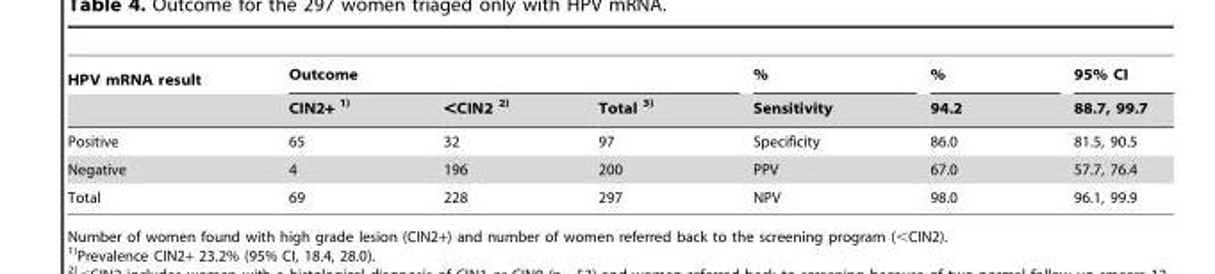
<table><thead><tr><td rowspan="2">HPV mRNA result</td><td colspan="3">Outcome</td><td rowspan="2">% Sensitivity</td><td rowspan="2">% 94.2</td><td rowspan="2">95% CI 88.7, 99.7</td></tr><tr><td>CIN2+ 1)</td><td>&lt;CIN2 2)</td><td>Total 3)</td></tr></thead><tbody><tr><td>Positive</td><td>65</td><td>32</td><td>97</td><td>Specificity</td><td>86.0</td><td>81.5, 90.5</td></tr><tr><td>Negative</td><td>4</td><td>196</td><td>200</td><td>PPV</td><td>67.0</td><td>57.7, 76.4</td></tr><tr><td>Total</td><td>69</td><td>228</td><td>297</td><td>NPV</td><td>98.0</td><td>96.1, 99.9</td></tr></tbody></table>